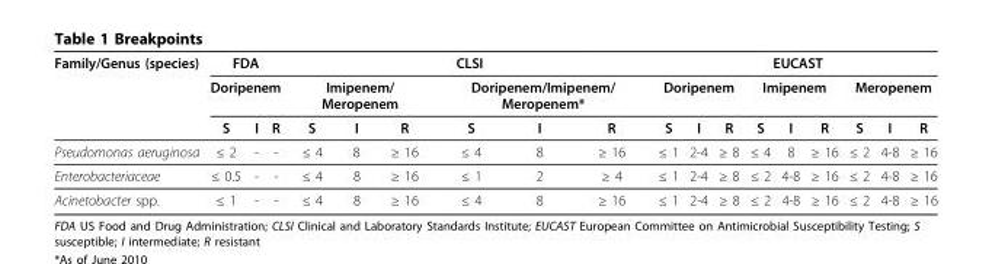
<table><thead><tr><td rowspan="3">Family/Genus (species)</td><td rowspan="2" colspan="3">FDA Doripenem</td><td colspan="6">CLSI</td><td colspan="9">EUCAST</td></tr><tr><td colspan="3">Imipenem/ Meropenem</td><td colspan="3">Doripenem/Imipenem/ Meropenem*</td><td colspan="3">Doripenem</td><td colspan="3">Imipenem</td><td colspan="3">Meropenem</td></tr><tr><td>S</td><td>I</td><td>R</td><td>S</td><td>I</td><td>R</td><td>S</td><td>I</td><td>R</td><td>S</td><td>I</td><td>R</td><td>S</td><td>I</td><td>R</td><td>S</td><td>I</td><td>R</td></tr></thead><tbody><tr><td>Pseudomonas aeruginosa</td><td>≤ 2</td><td>-</td><td>-</td><td>≤ 4</td><td>8</td><td>≥ 16</td><td>≤ 4</td><td>8</td><td>≥ 16</td><td>≤ 1</td><td>2-4</td><td>≥ 8</td><td>≤ 4</td><td>8</td><td>≥ 16</td><td>≤ 2</td><td>4-8</td><td>≥ 16</td></tr><tr><td>Enterobacteriaceae</td><td>≤ 0.5</td><td>-</td><td>-</td><td>≤ 4</td><td>8</td><td>≥ 16</td><td>≤ 1</td><td>2</td><td>≥ 4</td><td>≤ 1</td><td>2-4</td><td>≥ 8</td><td>≤ 2</td><td>4-8</td><td>≥ 16</td><td>≤ 2</td><td>4-8</td><td>≥ 16</td></tr><tr><td>Acinetobacter spp.</td><td>≤ 1</td><td>-</td><td>-</td><td>≤ 4</td><td>8</td><td>≥ 16</td><td>≤ 4</td><td>8</td><td>≥ 16</td><td>≤ 1</td><td>2-4</td><td>≥ 8</td><td>≤ 2</td><td>4-8</td><td>≥ 16</td><td>≤ 2</td><td>4-8</td><td>≥ 16</td></tr></tbody></table>